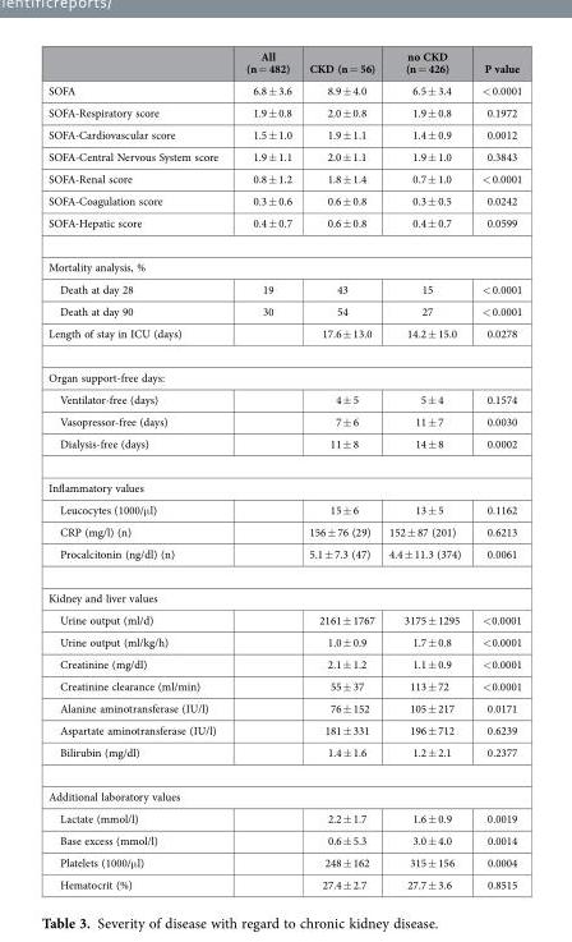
<table><thead><tr><td></td><td>All (n = 482)</td><td>CKD (n = 56)</td><td>no CKD (n = 426)</td><td>P value</td></tr></thead><tbody><tr><td>SOFA</td><td>6.8 ± 3.6</td><td>8.9 ± 4.0</td><td>6.5 ± 3.4</td><td>&lt; 0.0001</td></tr><tr><td>SOFA-Respiratory score</td><td>1.9 ± 0.8</td><td>2.0 ± 0.8</td><td>1.9 ± 0.8</td><td>0.1972</td></tr><tr><td>SOFA-Cardiovascular score</td><td>1.5 ± 1.0</td><td>1.9 ± 1.1</td><td>1.4 ± 0.9</td><td>0.0012</td></tr><tr><td>SOFA-Central Nervous System score</td><td>1.9 ± 1.1</td><td>2.0 ± 1.1</td><td>1.9 ± 1.0</td><td>0.3843</td></tr><tr><td>SOFA-Renal score</td><td>0.8 ± 1.2</td><td>1.8 ± 1.4</td><td>0.7 ± 1.0</td><td>&lt; 0.0001</td></tr><tr><td>SOFA-Coagulation score</td><td>0.3 ± 0.6</td><td>0.6 ± 0.8</td><td>0.3 ± 0.5</td><td>0.0242</td></tr><tr><td>SOFA-Hepatic score</td><td>0.4 ± 0.7</td><td>0.6 ± 0.8</td><td>0.4 ± 0.7</td><td>0.0599</td></tr><tr><td colspan="5">Mortality analysis, %</td></tr><tr><td>Death at day 28</td><td>19</td><td>43</td><td>15</td><td>&lt; 0.0001</td></tr><tr><td>Death at day 90</td><td>30</td><td>54</td><td>27</td><td>&lt; 0.0001</td></tr><tr><td>Length of stay in ICU (days)</td><td></td><td>17.6 ± 13.0</td><td>14.2 ± 15.0</td><td>0.0278</td></tr><tr><td colspan="5">Organ support-free days:</td></tr><tr><td>Ventilator-free (days)</td><td></td><td>4 ± 5</td><td>5 ± 4</td><td>0.1574</td></tr><tr><td>Vasopressor-free (days)</td><td></td><td>7 ± 6</td><td>11 ± 7</td><td>0.0030</td></tr><tr><td>Dialysis-free (days)</td><td></td><td>11 ± 8</td><td>14 ± 8</td><td>0.0002</td></tr><tr><td colspan="5">Inflammatory values</td></tr><tr><td>Leucocytes (1000/μ l)</td><td></td><td>15 ± 6</td><td>13 ± 5</td><td>0.1162</td></tr><tr><td>CRP (mg/l) (n)</td><td></td><td>156 ± 76 (29)</td><td>152 ± 87 (201)</td><td>0.6213</td></tr><tr><td>Procalcitonin (ng/dl) (n)</td><td></td><td>5.1 ± 7.3 (47)</td><td>4.4 ± 11.3 (374)</td><td>0.0061</td></tr><tr><td colspan="5">Kidney and liver values</td></tr><tr><td>Urine output (ml/d)</td><td></td><td>2161 ± 1767</td><td>3175 ± 1295</td><td>&lt;0.0001</td></tr><tr><td>Urine output (ml/kg/h)</td><td></td><td>1.0 ± 0.9</td><td>1.7 ± 0.8</td><td>&lt; 0.0001</td></tr><tr><td>Creatinine (mg/dl)</td><td></td><td>2.1 ± 1.2</td><td>1.1 ± 0.9</td><td>&lt; 0.0001</td></tr><tr><td>Creatinine clearance (ml/min)</td><td></td><td>55 ± 37</td><td>113 ± 72</td><td>&lt; 0.0001</td></tr><tr><td>Alanine aminotransferase (IU/l)</td><td></td><td>76 ± 152</td><td>105 ± 217</td><td>0.0171</td></tr><tr><td>Aspartate aminotransferase (IU/l)</td><td></td><td>181 ± 331</td><td>196 ± 712</td><td>0.6239</td></tr><tr><td>Bilirubin (mg/dl)</td><td></td><td>1.4 ± 1.6</td><td>1.2 ± 2.1</td><td>0.2377</td></tr><tr><td colspan="5">Additional laboratory values</td></tr><tr><td>Lactate (mmol/l)</td><td></td><td>2.2 ± 1.7</td><td>1.6 ± 0.9</td><td>0.0019</td></tr><tr><td>Base excess (mmol/l)</td><td></td><td>0.6 ± 5.3</td><td>3.0 ± 4.0</td><td>0.0014</td></tr><tr><td>Platelets (1000/μ l)</td><td></td><td>248 ± 162</td><td>315 ± 156</td><td>0.0004</td></tr><tr><td>Hematocrit (%)</td><td></td><td>27.4 ± 2.7</td><td>27.7 ± 3.6</td><td>0.8515</td></tr></tbody></table>